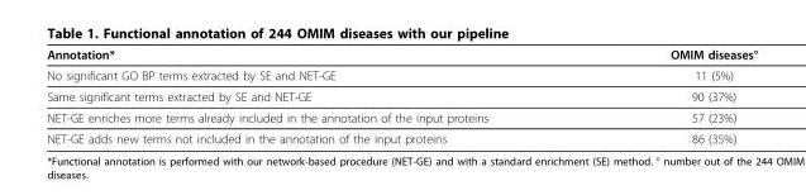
<table><thead><tr><td>Annotation*</td><td>OMIM diseases°</td></tr></thead><tbody><tr><td>No significant GO BP terms extracted by SE and NET-GE</td><td>11 (5%)</td></tr><tr><td>Same significant terms extracted by SE and NET-GE</td><td>90 (37%)</td></tr><tr><td>NET-GE enriches more terms already included in the annotation of the input proteins</td><td>57 (23%)</td></tr><tr><td>NET-GE adds new terms not included in the annotation of the input proteins</td><td>86 (35%)</td></tr></tbody></table>